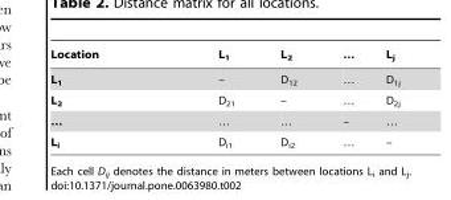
<table><thead><tr><td>Location</td><td>L<sub>1</sub></td><td>L<sub>2</sub></td><td>…</td><td>L<sub>j</sub></td></tr></thead><tbody><tr><td>L<sub>1</sub></td><td>–</td><td>D<sub>12</sub></td><td>…</td><td>D<sub>1j</sub></td></tr><tr><td>L<sub>2</sub></td><td>D<sub>21</sub></td><td>–</td><td>…</td><td>D<sub>2j</sub></td></tr><tr><td>…</td><td>…</td><td>…</td><td>–</td><td>…</td></tr><tr><td>L<sub>i</sub></td><td>D<sub>i1</sub></td><td>D<sub>i2</sub></td><td>…</td><td>–</td></tr></tbody></table>